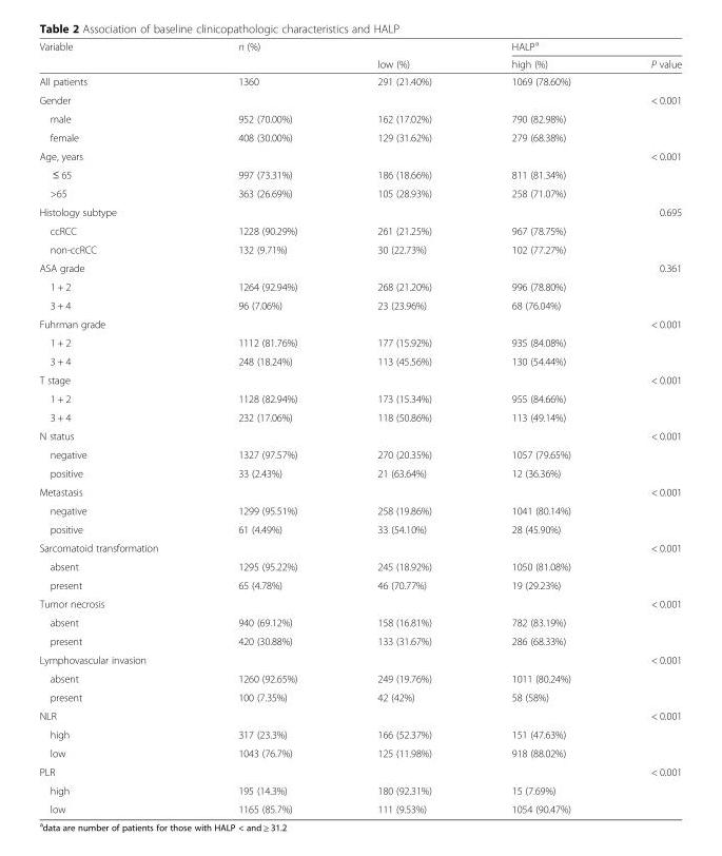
<table><thead><tr><td rowspan="2">Variable</td><td rowspan="2">n (%)</td><td rowspan="2">low (%)</td><td colspan="2">HALP<sup>a</sup></td></tr><tr><td>high (%)</td><td>P value</td></tr></thead><tbody><tr><td>All patients</td><td>1360</td><td>291 (21.40%)</td><td>1069 (78.60%)</td><td></td></tr><tr><td>Gender</td><td></td><td></td><td></td><td>&lt; 0.001</td></tr><tr><td>male</td><td>952 (70.00%)</td><td>162 (17.02%)</td><td>790 (82.98%)</td><td></td></tr><tr><td>female</td><td>408 (30.00%)</td><td>129 (31.62%)</td><td>279 (68.38%)</td><td></td></tr><tr><td>Age, years</td><td></td><td></td><td></td><td>&lt; 0.001</td></tr><tr><td>≤ 65</td><td>997 (73.31%)</td><td>186 (18.66%)</td><td>811 (81.34%)</td><td></td></tr><tr><td>&gt;65</td><td>363 (26.69%)</td><td>105 (28.93%)</td><td>258 (71.07%)</td><td></td></tr><tr><td>Histology subtype</td><td></td><td></td><td></td><td>0.695</td></tr><tr><td>ccRCC</td><td>1228 (90.29%)</td><td>261 (21.25%)</td><td>967 (78.75%)</td><td></td></tr><tr><td>non-ccRCC</td><td>132 (9.71%)</td><td>30 (22.73%)</td><td>102 (77.27%)</td><td></td></tr><tr><td>ASA grade</td><td></td><td></td><td></td><td>0.361</td></tr><tr><td>1 + 2</td><td>1264 (92.94%)</td><td>268 (21.20%)</td><td>996 (78.80%)</td><td></td></tr><tr><td>3 + 4</td><td>96 (7.06%)</td><td>23 (23.96%)</td><td>68 (76.04%)</td><td></td></tr><tr><td>Fuhrman grade</td><td></td><td></td><td></td><td>&lt; 0.001</td></tr><tr><td>1 + 2</td><td>1112 (81.76%)</td><td>177 (15.92%)</td><td>935 (84.08%)</td><td></td></tr><tr><td>3 + 4</td><td>248 (18.24%)</td><td>113 (45.56%)</td><td>130 (54.44%)</td><td></td></tr><tr><td>T stage</td><td></td><td></td><td></td><td>&lt; 0.001</td></tr><tr><td>1 + 2</td><td>1128 (82.94%)</td><td>173 (15.34%)</td><td>955 (84.66%)</td><td></td></tr><tr><td>3 + 4</td><td>232 (17.06%)</td><td>118 (50.86%)</td><td>113 (49.14%)</td><td></td></tr><tr><td>N status</td><td></td><td></td><td></td><td>&lt; 0.001</td></tr><tr><td>negative</td><td>1327 (97.57%)</td><td>270 (20.35%)</td><td>1057 (79.65%)</td><td></td></tr><tr><td>positive</td><td>33 (2.43%)</td><td>21 (63.64%)</td><td>12 (36.36%)</td><td></td></tr><tr><td>Metastasis</td><td></td><td></td><td></td><td>&lt; 0.001</td></tr><tr><td>negative</td><td>1299 (95.51%)</td><td>258 (19.86%)</td><td>1041 (80.14%)</td><td></td></tr><tr><td>positive</td><td>61 (4.49%)</td><td>33 (54.10%)</td><td>28 (45.90%)</td><td></td></tr><tr><td>Sarcomatoid transformation</td><td></td><td></td><td></td><td>&lt; 0.001</td></tr><tr><td>absent</td><td>1295 (95.22%)</td><td>245 (18.92%)</td><td>1050 (81.08%)</td><td></td></tr><tr><td>present</td><td>65 (4.78%)</td><td>46 (70.77%)</td><td>19 (29.23%)</td><td></td></tr><tr><td>Tumor necrosis</td><td></td><td></td><td></td><td>&lt; 0.001</td></tr><tr><td>absent</td><td>940 (69.12%)</td><td>158 (16.81%)</td><td>782 (83.19%)</td><td></td></tr><tr><td>present</td><td>420 (30.88%)</td><td>133 (31.67%)</td><td>286 (68.33%)</td><td></td></tr><tr><td>Lymphovascular invasion</td><td></td><td></td><td></td><td>&lt; 0.001</td></tr><tr><td>absent</td><td>1260 (92.65%)</td><td>249 (19.76%)</td><td>1011 (80.24%)</td><td></td></tr><tr><td>present</td><td>100 (7.35%)</td><td>42 (42%)</td><td>58 (58%)</td><td></td></tr><tr><td>NLR</td><td></td><td></td><td></td><td>&lt; 0.001</td></tr><tr><td>high</td><td>317 (23.3%)</td><td>166 (52.37%)</td><td>151 (47.63%)</td><td></td></tr><tr><td>low</td><td>1043 (76.7%)</td><td>125 (11.98%)</td><td>918 (88.02%)</td><td></td></tr><tr><td>PLR</td><td></td><td></td><td></td><td>&lt; 0.001</td></tr><tr><td>high</td><td>195 (14.3%)</td><td>180 (92.31%)</td><td>15 (7.69%)</td><td></td></tr><tr><td>low</td><td>1165 (85.7%)</td><td>111 (9.53%)</td><td>1054 (90.47%)</td><td></td></tr></tbody></table>